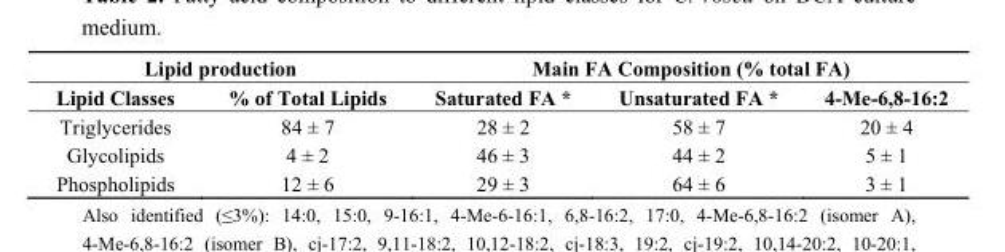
<table><thead><tr><td colspan="2">Lipid production</td><td colspan="3">Main FA Composition (% total FA)</td></tr><tr><td>Lipid Classes</td><td>% of Total Lipids</td><td>Saturated FA *</td><td>Unsaturated FA *</td><td>4-Me-6,8-16:2</td></tr></thead><tbody><tr><td>Triglycerides</td><td>84 ± 7</td><td>28 ± 2</td><td>58 ± 7</td><td>20 ± 4</td></tr><tr><td>Glycolipids</td><td>4 ± 2</td><td>46 ± 3</td><td>44 ± 2</td><td>5 ± 1</td></tr><tr><td>Phospholipids</td><td>12 ± 6</td><td>29 ± 3</td><td>64 ± 6</td><td>3 ± 1</td></tr></tbody></table>